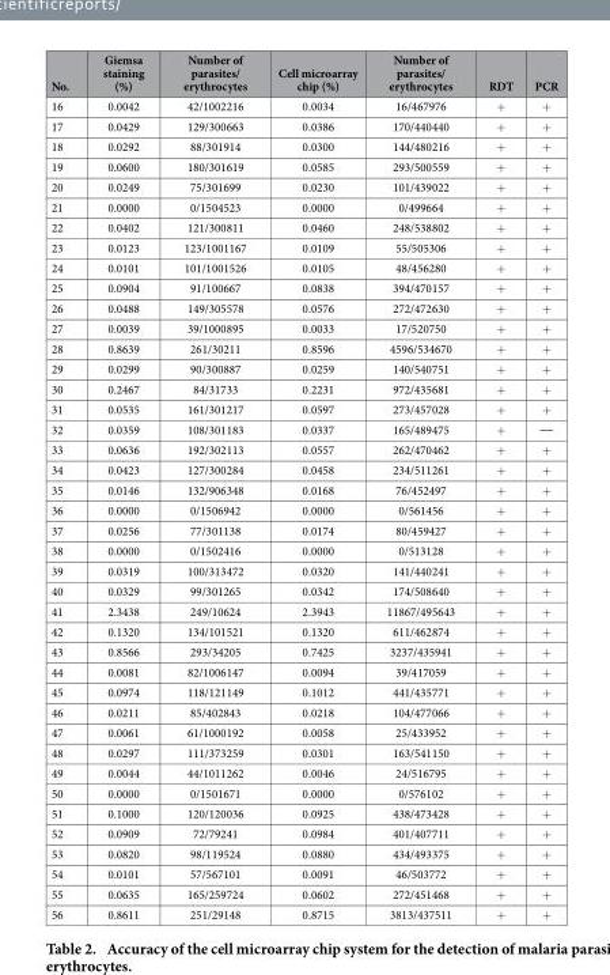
<table><thead><tr><td>No.</td><td>Giemsa staining (%)</td><td>Number of parasites/ erythrocytes</td><td>Cell microarray chip (%)</td><td>Number of parasites/ erythrocytes</td><td>RDT</td><td>PCR</td></tr></thead><tbody><tr><td>16</td><td>0.0042</td><td>42/1002216</td><td>0.0034</td><td>16/467976</td><td>+</td><td>+</td></tr><tr><td>17</td><td>0.0429</td><td>129/300663</td><td>0.0386</td><td>170/440440</td><td>+</td><td>+</td></tr><tr><td>18</td><td>0.0292</td><td>88/301914</td><td>0.0300</td><td>144/480216</td><td>+</td><td>+</td></tr><tr><td>19</td><td>0.0600</td><td>180/301619</td><td>0.0585</td><td>293/500559</td><td>+</td><td>+</td></tr><tr><td>20</td><td>0.0249</td><td>75/301699</td><td>0.0230</td><td>101/439022</td><td>+</td><td>+</td></tr><tr><td>21</td><td>0.0000</td><td>0/1504523</td><td>0.0000</td><td>0/499664</td><td>+</td><td>+</td></tr><tr><td>22</td><td>0.0402</td><td>121/300811</td><td>0.0460</td><td>248/538802</td><td>+</td><td>+</td></tr><tr><td>23</td><td>0.0123</td><td>123/1001167</td><td>0.0109</td><td>55/505306</td><td>+</td><td>+</td></tr><tr><td>24</td><td>0.0101</td><td>101/1001526</td><td>0.0105</td><td>48/456280</td><td>+</td><td>+</td></tr><tr><td>25</td><td>0.0904</td><td>91/100667</td><td>0.0838</td><td>394/470157</td><td>+</td><td>+</td></tr><tr><td>26</td><td>0.0488</td><td>149/305578</td><td>0.0576</td><td>272/472630</td><td>+</td><td>+</td></tr><tr><td>27</td><td>0.0039</td><td>39/1000895</td><td>0.0033</td><td>17/520750</td><td>+</td><td>+</td></tr><tr><td>28</td><td>0.8639</td><td>261/30211</td><td>0.8596</td><td>4596/534670</td><td>+</td><td>+</td></tr><tr><td>29</td><td>0.0299</td><td>90/300887</td><td>0.0259</td><td>140/540751</td><td>+</td><td>+</td></tr><tr><td>30</td><td>0.2467</td><td>84/31733</td><td>0.2231</td><td>972/435681</td><td>+</td><td>+</td></tr><tr><td>31</td><td>0.0535</td><td>161/301217</td><td>0.0597</td><td>273/457028</td><td>+</td><td>+</td></tr><tr><td>32</td><td>0.0359</td><td>108/301183</td><td>0.0337</td><td>165/489475</td><td>+</td><td>̶</td></tr><tr><td>33</td><td>0.0636</td><td>192/302113</td><td>0.0557</td><td>262/470462</td><td>+</td><td>+</td></tr><tr><td>34</td><td>0.0423</td><td>127/300284</td><td>0.0458</td><td>234/511261</td><td>+</td><td>+</td></tr><tr><td>35</td><td>0.0146</td><td>132/906348</td><td>0.0168</td><td>76/452497</td><td>+</td><td>+</td></tr><tr><td>36</td><td>0.0000</td><td>0/1506942</td><td>0.0000</td><td>0/561456</td><td>+</td><td>+</td></tr><tr><td>37</td><td>0.0256</td><td>77/301138</td><td>0.0174</td><td>80/459427</td><td>+</td><td>+</td></tr><tr><td>38</td><td>0.0000</td><td>0/1502416</td><td>0.0000</td><td>0/513128</td><td>+</td><td>+</td></tr><tr><td>39</td><td>0.0319</td><td>100/313472</td><td>0.0320</td><td>141/440241</td><td>+</td><td>+</td></tr><tr><td>40</td><td>0.0329</td><td>99/301265</td><td>0.0342</td><td>174/508640</td><td>+</td><td>+</td></tr><tr><td>41</td><td>2.3438</td><td>249/10624</td><td>2.3943</td><td>11867/495643</td><td>+</td><td>+</td></tr><tr><td>42</td><td>0.1320</td><td>134/101521</td><td>0.1320</td><td>611/462874</td><td>+</td><td>+</td></tr><tr><td>43</td><td>0.8566</td><td>293/34205</td><td>0.7425</td><td>3237/435941</td><td>+</td><td>+</td></tr><tr><td>44</td><td>0.0081</td><td>82/1006147</td><td>0.0094</td><td>39/417059</td><td>+</td><td>+</td></tr><tr><td>45</td><td>0.0974</td><td>118/121149</td><td>0.1012</td><td>441/435771</td><td>+</td><td>+</td></tr><tr><td>46</td><td>0.0211</td><td>85/402843</td><td>0.0218</td><td>104/477066</td><td>+</td><td>+</td></tr><tr><td>47</td><td>0.0061</td><td>61/1000192</td><td>0.0058</td><td>25/433952</td><td>+</td><td>+</td></tr><tr><td>48</td><td>0.0297</td><td>111/373259</td><td>0.0301</td><td>163/541150</td><td>+</td><td>+</td></tr><tr><td>49</td><td>0.0044</td><td>44/1011262</td><td>0.0046</td><td>24/516795</td><td>+</td><td>+</td></tr><tr><td>50</td><td>0.0000</td><td>0/1501671</td><td>0.0000</td><td>0/576102</td><td>+</td><td>+</td></tr><tr><td>51</td><td>0.1000</td><td>120/120036</td><td>0.0925</td><td>438/473428</td><td>+</td><td>+</td></tr><tr><td>52</td><td>0.0909</td><td>72/79241</td><td>0.0984</td><td>401/407711</td><td>+</td><td>+</td></tr><tr><td>53</td><td>0.0820</td><td>98/119524</td><td>0.0880</td><td>434/493375</td><td>+</td><td>+</td></tr><tr><td>54</td><td>0.0101</td><td>57/567101</td><td>0.0091</td><td>46/503772</td><td>+</td><td>+</td></tr><tr><td>55</td><td>0.0635</td><td>165/259724</td><td>0.0602</td><td>272/451468</td><td>+</td><td>+</td></tr><tr><td>56</td><td>0.8611</td><td>251/29148</td><td>0.8715</td><td>3813/437511</td><td>+</td><td>+</td></tr></tbody></table>